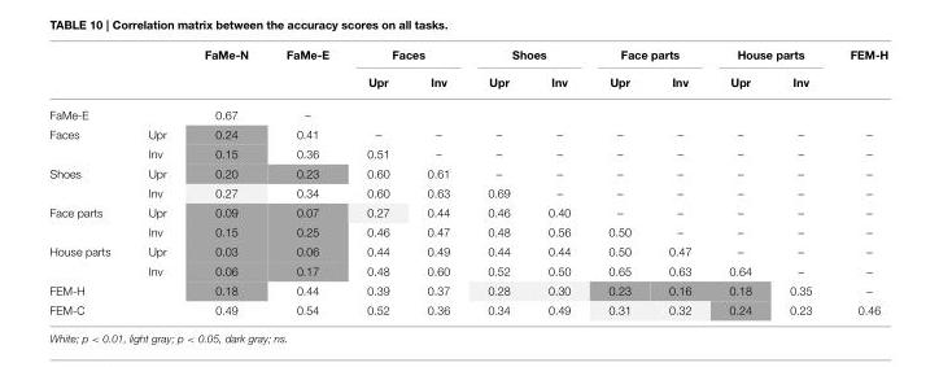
<table><thead><tr><td rowspan="2"></td><td rowspan="2"></td><td rowspan="2">FaMe-N</td><td rowspan="2">FaMe-E</td><td colspan="2">Faces</td><td colspan="2">Shoes</td><td colspan="2">Face parts</td><td colspan="2">House parts</td><td rowspan="2">FEM-H</td></tr><tr><td>Upr</td><td>Inv</td><td>Upr</td><td>Inv</td><td>Upr</td><td>Inv</td><td>Upr</td><td>Inv</td></tr></thead><tbody><tr><td>FaMe-E</td><td></td><td>0.67</td><td>–</td><td></td><td></td><td></td><td></td><td></td><td></td><td></td><td></td><td></td></tr><tr><td rowspan="2">Faces</td><td>Upr</td><td>0.24</td><td>0.41</td><td>–</td><td>–</td><td>–</td><td>–</td><td>–</td><td>–</td><td>–</td><td>–</td><td>–</td></tr><tr><td>Inv</td><td>0.15</td><td>0.36</td><td>0.51</td><td>–</td><td>–</td><td>–</td><td>–</td><td>–</td><td>–</td><td>–</td><td>–</td></tr><tr><td rowspan="2">Shoes</td><td>Upr</td><td>0.20</td><td>0.23</td><td>0.60</td><td>0.61</td><td>–</td><td>–</td><td>–</td><td>–</td><td>–</td><td>–</td><td>–</td></tr><tr><td>Inv</td><td>0.27</td><td>0.34</td><td>0.60</td><td>0.63</td><td>0.69</td><td>–</td><td>–</td><td>–</td><td>–</td><td>–</td><td>–</td></tr><tr><td rowspan="2">Face parts</td><td>Upr</td><td>0.09</td><td>0.07</td><td>0.27</td><td>0.44</td><td>0.46</td><td>0.40</td><td>–</td><td>–</td><td>–</td><td>–</td><td>–</td></tr><tr><td>Inv</td><td>0.15</td><td>0.25</td><td>0.46</td><td>0.47</td><td>0.48</td><td>0.56</td><td>0.50</td><td>–</td><td>–</td><td>–</td><td>–</td></tr><tr><td rowspan="2">House parts</td><td>Upr</td><td>0.03</td><td>0.06</td><td>0.44</td><td>0.49</td><td>0.44</td><td>0.44</td><td>0.50</td><td>0.47</td><td>–</td><td>–</td><td>–</td></tr><tr><td>Inv</td><td>0.06</td><td>0.17</td><td>0.48</td><td>0.60</td><td>0.52</td><td>0.50</td><td>0.65</td><td>0.63</td><td>0.64</td><td>–</td><td>–</td></tr><tr><td>FEM-H</td><td></td><td>0.18</td><td>0.44</td><td>0.39</td><td>0.37</td><td>0.28</td><td>0.30</td><td>0.23</td><td>0.16</td><td>0.18</td><td>0.35</td><td>–</td></tr><tr><td>FEM-C</td><td></td><td>0.49</td><td>0.54</td><td>0.52</td><td>0.36</td><td>0.34</td><td>0.49</td><td>0.31</td><td>0.32</td><td>0.24</td><td>0.23</td><td>0.46</td></tr></tbody></table>